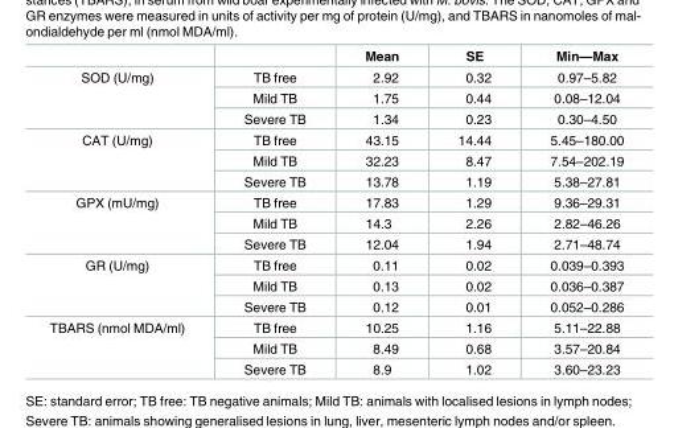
<table><thead><tr><td></td><td></td><td>Mean</td><td>SE</td><td>Min—Max</td></tr></thead><tbody><tr><td rowspan="3">SOD (U/mg)</td><td>TB free</td><td>2.92</td><td>0.32</td><td>0.97–5.82</td></tr><tr><td>Mild TB</td><td>1.75</td><td>0.44</td><td>0.08–12.04</td></tr><tr><td>Severe TB</td><td>1.34</td><td>0.23</td><td>0.30–4.50</td></tr><tr><td rowspan="3">CAT (U/mg)</td><td>TB free</td><td>43.15</td><td>14.44</td><td>5.45–180.00</td></tr><tr><td>Mild TB</td><td>32.23</td><td>8.47</td><td>7.54–202.19</td></tr><tr><td>Severe TB</td><td>13.78</td><td>1.19</td><td>5.38–27.81</td></tr><tr><td rowspan="3">GPX (mU/mg)</td><td>TB free</td><td>17.83</td><td>1.29</td><td>9.36–29.31</td></tr><tr><td>Mild TB</td><td>14.3</td><td>2.26</td><td>2.82–46.26</td></tr><tr><td>Severe TB</td><td>12.04</td><td>1.94</td><td>2.71–48.74</td></tr><tr><td rowspan="3">GR (U/mg)</td><td>TB free</td><td>0.11</td><td>0.02</td><td>0.039–0.393</td></tr><tr><td>Mild TB</td><td>0.13</td><td>0.02</td><td>0.036–0.387</td></tr><tr><td>Severe TB</td><td>0.12</td><td>0.01</td><td>0.052–0.286</td></tr><tr><td rowspan="3">TBARS (nmol MDA/ml)</td><td>TB free</td><td>10.25</td><td>1.16</td><td>5.11–22.88</td></tr><tr><td>Mild TB</td><td>8.49</td><td>0.68</td><td>3.57–20.84</td></tr><tr><td>Severe TB</td><td>8.9</td><td>1.02</td><td>3.60–23.23</td></tr></tbody></table>